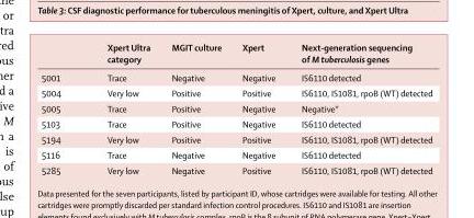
<table><thead><tr><td></td><td>Xpert Ultra category</td><td>MGIT culture</td><td>Xpert</td><td>Next-generation sequencing of M tuberculosis genes</td></tr></thead><tbody><tr><td>5001</td><td>Trace</td><td>Negative</td><td>Negative</td><td>IS6110 detected</td></tr><tr><td>5004</td><td>Very low</td><td>Positive</td><td>Positive</td><td>IS6110, IS1081, rpoB (WT) detected</td></tr><tr><td>5005</td><td>Trace</td><td>Positive</td><td>Negative</td><td>Negative*</td></tr><tr><td>5103</td><td>Trace</td><td>Positive</td><td>Negative</td><td>IS6110 detected</td></tr><tr><td>5194</td><td>Very low</td><td>Positive</td><td>Positive</td><td>IS6110, IS1081, rpoB (WT) detected</td></tr><tr><td>5116</td><td>Trace</td><td>Negative</td><td>Negative</td><td>IS6110 detected</td></tr><tr><td>5285</td><td>Very low</td><td>Negative</td><td>Positive</td><td>IS6110, IS1081, rpoB (WT) detected</td></tr></tbody></table>